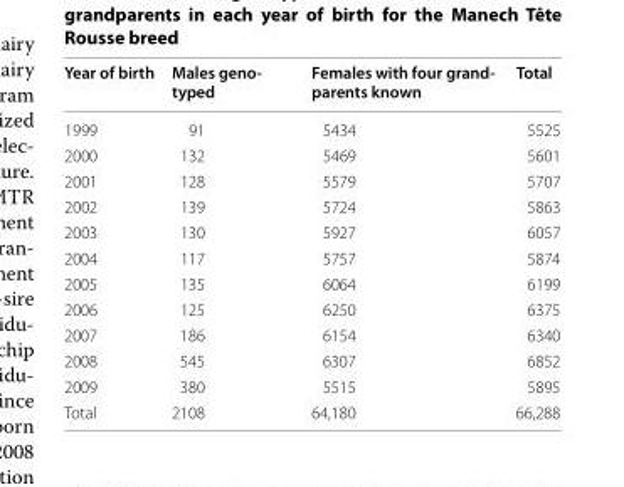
<table><thead><tr><td>Year of birth</td><td>Males geno- typed</td><td>Females with four grand- parents known</td><td>Total</td></tr></thead><tbody><tr><td>1999</td><td>91</td><td>5434</td><td>5525</td></tr><tr><td>2000</td><td>132</td><td>5469</td><td>5601</td></tr><tr><td>2001</td><td>128</td><td>5579</td><td>5707</td></tr><tr><td>2002</td><td>139</td><td>5724</td><td>5863</td></tr><tr><td>2003</td><td>130</td><td>5927</td><td>6057</td></tr><tr><td>2004</td><td>117</td><td>5757</td><td>5874</td></tr><tr><td>2005</td><td>135</td><td>6064</td><td>6199</td></tr><tr><td>2006</td><td>125</td><td>6250</td><td>6375</td></tr><tr><td>2007</td><td>186</td><td>6154</td><td>6340</td></tr><tr><td>2008</td><td>545</td><td>6307</td><td>6852</td></tr><tr><td>2009</td><td>380</td><td>5515</td><td>5895</td></tr><tr><td>Total</td><td>2108</td><td>64,180</td><td>66,288</td></tr></tbody></table>